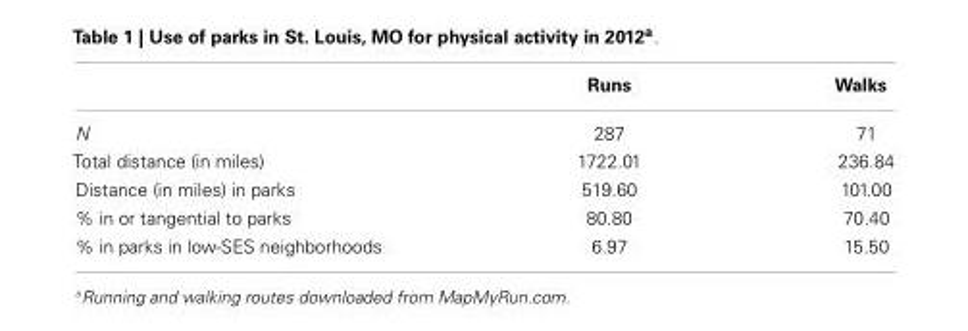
<table><thead><tr><td></td><td>Runs</td><td>Walks</td></tr></thead><tbody><tr><td>N</td><td>287</td><td>71</td></tr><tr><td>Total distance (in miles)</td><td>1722.01</td><td>236.84</td></tr><tr><td>Distance (in miles) in parks</td><td>519.60</td><td>101.00</td></tr><tr><td>% in or tangential to parks</td><td>80.80</td><td>70.40</td></tr><tr><td>% in parks in low-SES neighborhoods</td><td>6.97</td><td>15.50</td></tr></tbody></table>